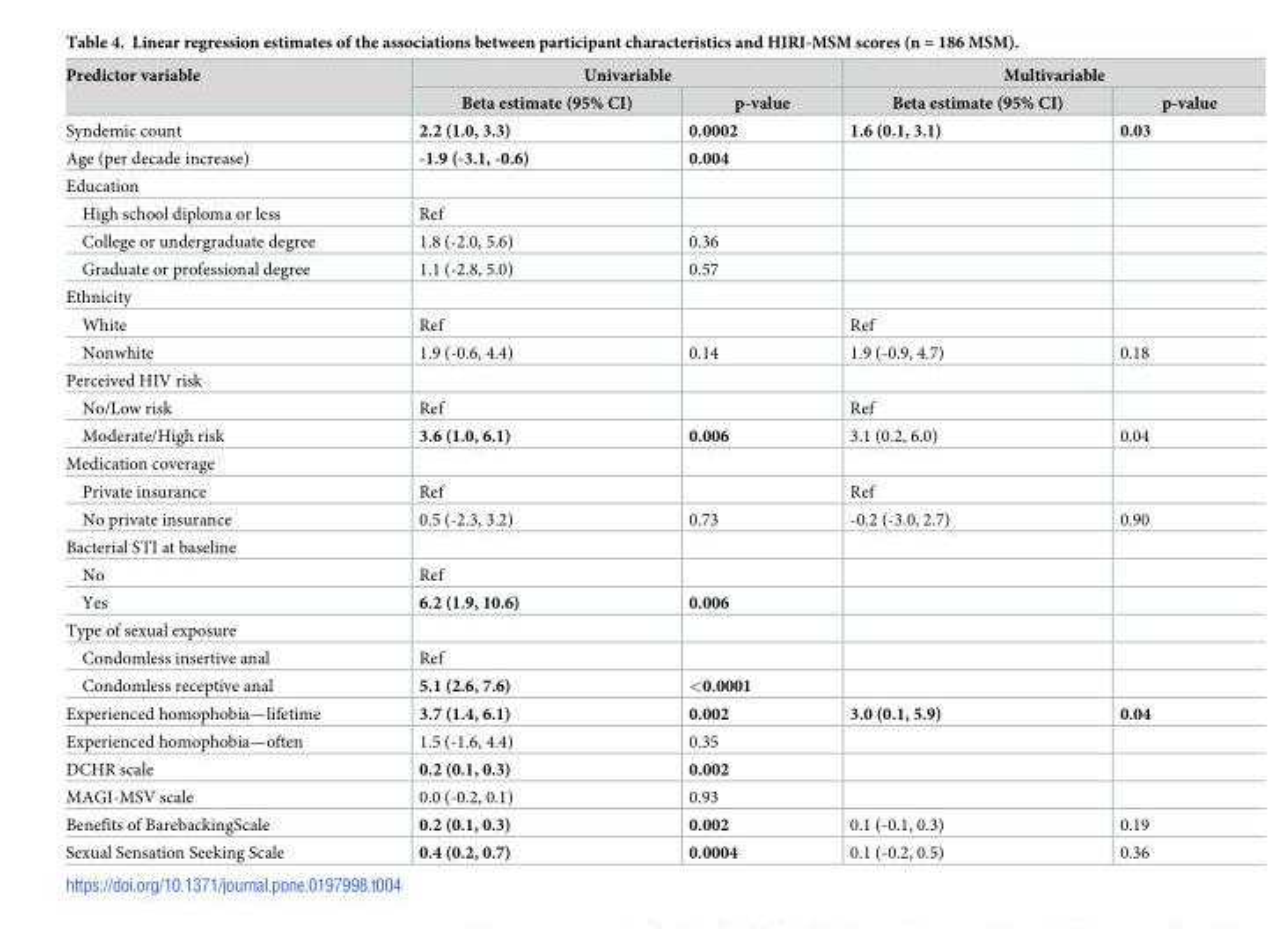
<table><thead><tr><td rowspan="2">Predictor variable</td><td colspan="2">Univariable</td><td colspan="2">Multivariable</td></tr><tr><td>Beta estimate (95% CI)</td><td>p-value</td><td>Beta estimate (95% CI)</td><td>p-value</td></tr></thead><tbody><tr><td>Syndemic count</td><td>2.2 (1.0, 3.3)</td><td>0.0002</td><td>1.6 (0.1, 3.1)</td><td>0.03</td></tr><tr><td>Age (per decade increase)</td><td>-1.9 (-3.1, -0.6)</td><td>0.004</td><td></td><td></td></tr><tr><td colspan="5">Education</td></tr><tr><td>High school diploma or less</td><td>Ref</td><td></td><td></td><td></td></tr><tr><td>College or undergraduate degree</td><td>1.8 (-2.0, 5.6)</td><td>0.36</td><td></td><td></td></tr><tr><td>Graduate or professional degree</td><td>1.1 (-2.8, 5.0)</td><td>0.57</td><td></td><td></td></tr><tr><td colspan="5">Ethnicity</td></tr><tr><td>White</td><td>Ref</td><td></td><td>Ref</td><td></td></tr><tr><td>Nonwhite</td><td>1.9 (-0.6, 4.4)</td><td>0.14</td><td>1.9 (-0.9, 4.7)</td><td>0.18</td></tr><tr><td colspan="5">Perceived HIV risk</td></tr><tr><td>No/Low risk</td><td>Ref</td><td></td><td>Ref</td><td></td></tr><tr><td>Moderate/High risk</td><td>3.6 (1.0, 6.1)</td><td>0.006</td><td>3.1 (0.2, 6.0)</td><td>0.04</td></tr><tr><td colspan="5">Medication coverage</td></tr><tr><td>Private insurance</td><td>Ref</td><td></td><td>Ref</td><td></td></tr><tr><td>No private insurance</td><td>0.5 (-2.3, 3.2)</td><td>0.73</td><td>-0.2 (-3.0, 2.7)</td><td>0.90</td></tr><tr><td colspan="5">Bacterial STI at baseline</td></tr><tr><td>No</td><td>Ref</td><td></td><td></td><td></td></tr><tr><td>Yes</td><td>6.2 (1.9, 10.6)</td><td>0.006</td><td></td><td></td></tr><tr><td colspan="5">Type of sexual exposure</td></tr><tr><td>Condomless insertive anal</td><td>Ref</td><td></td><td></td><td></td></tr><tr><td>Condomless receptive anal</td><td>5.1 (2.6, 7.6)</td><td>&lt;0.0001</td><td></td><td></td></tr><tr><td>Experienced homophobia—lifetime</td><td>3.7 (1.4, 6.1)</td><td>0.002</td><td>3.0 (0.1, 5.9)</td><td>0.04</td></tr><tr><td>Experienced homophobia—often</td><td>1.5 (-1.6, 4.4)</td><td>0.35</td><td></td><td></td></tr><tr><td>DCHR scale</td><td>0.2 (0.1, 0.3)</td><td>0.002</td><td></td><td></td></tr><tr><td>MAGI-MSV scale</td><td>0.0 (-0.2, 0.1)</td><td>0.93</td><td></td><td></td></tr><tr><td>Benefits of BarebackingScale</td><td>0.2 (0.1, 0.3)</td><td>0.002</td><td>0.1 (-0.1, 0.3)</td><td>0.19</td></tr><tr><td>Sexual Sensation Seeking Scale</td><td>0.4 (0.2, 0.7)</td><td>0.0004</td><td>0.1 (-0.2, 0.5)</td><td>0.36</td></tr></tbody></table>